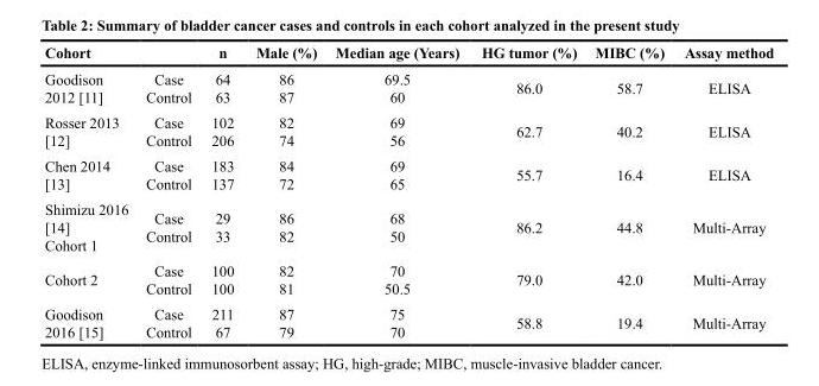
<table><thead><tr><td>Cohort</td><td></td><td>n</td><td>Male (%)</td><td>Median age (Years)</td><td>HG tumor (%)</td><td>MIBC (%)</td><td>Assay method</td></tr></thead><tbody><tr><td>Goodison 2012 [11]</td><td>Case Control</td><td>64 63</td><td>86 87</td><td>69.5 60</td><td>86.0</td><td>58.7</td><td>ELISA</td></tr><tr><td>Rosser 2013 [12]</td><td>Case Control</td><td>102 206</td><td>82 74</td><td>69 56</td><td>62.7</td><td>40.2</td><td>ELISA</td></tr><tr><td>Chen 2014 [13]</td><td>Case Control</td><td>183 137</td><td>84 72</td><td>69 65</td><td>55.7</td><td>16.4</td><td>ELISA</td></tr><tr><td>Shimizu 2016 [14] Cohort 1</td><td>Case Control</td><td>29 33</td><td>86 82</td><td>68 50</td><td>86.2</td><td>44.8</td><td>Multi-Array</td></tr><tr><td>Cohort 2</td><td>Case Control</td><td>100 100</td><td>82 81</td><td>70 50.5</td><td>79.0</td><td>42.0</td><td>Multi-Array</td></tr><tr><td>Goodison 2016 [15]</td><td>Case Control</td><td>211 67</td><td>87 79</td><td>75 70</td><td>58.8</td><td>19.4</td><td>Multi-Array</td></tr></tbody></table>